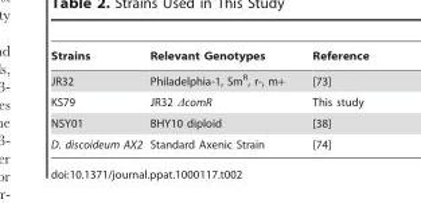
<table><thead><tr><td>Strains</td><td>Relevant Genotypes</td><td>Reference</td></tr></thead><tbody><tr><td>JR32</td><td>Philadelphia-1, Sm<sup>R</sup>, r-, m+</td><td>[73]</td></tr><tr><td>KS79</td><td>JR32 ΔcomR</td><td>This study</td></tr><tr><td>NSY01</td><td>BHY10 diploid</td><td>[38]</td></tr><tr><td>D. discoideum AX2</td><td>Standard Axenic Strain</td><td>[74]</td></tr></tbody></table>